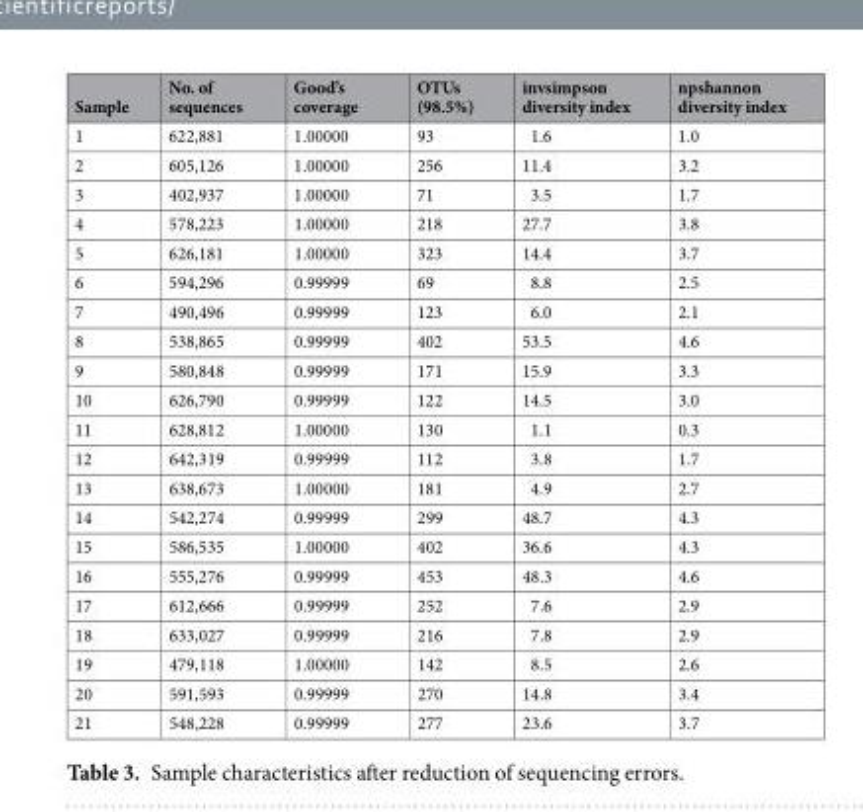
<table><thead><tr><td>Sample</td><td>No. of sequences</td><td>Good’s coverage</td><td>OTUs (98.5%)</td><td>invsimpson diversity index</td><td>npshannon diversity index</td></tr></thead><tbody><tr><td>1</td><td>622,881</td><td>1.00000</td><td>93</td><td>1.6</td><td>1.0</td></tr><tr><td>2</td><td>605,126</td><td>1.00000</td><td>256</td><td>11.4</td><td>3.2</td></tr><tr><td>3</td><td>402,937</td><td>1.00000</td><td>71</td><td>3.5</td><td>1.7</td></tr><tr><td>4</td><td>578,223</td><td>1.00000</td><td>218</td><td>27.7</td><td>3.8</td></tr><tr><td>5</td><td>626,181</td><td>1.00000</td><td>323</td><td>14.4</td><td>3.7</td></tr><tr><td>6</td><td>594,296</td><td>0.99999</td><td>69</td><td>8.8</td><td>2.5</td></tr><tr><td>7</td><td>490,496</td><td>0.99999</td><td>123</td><td>6.0</td><td>2.1</td></tr><tr><td>8</td><td>538,865</td><td>0.99999</td><td>402</td><td>53.5</td><td>4.6</td></tr><tr><td>9</td><td>580,848</td><td>0.99999</td><td>171</td><td>15.9</td><td>3.3</td></tr><tr><td>10</td><td>626,790</td><td>0.99999</td><td>122</td><td>14.5</td><td>3.0</td></tr><tr><td>11</td><td>628,812</td><td>1.00000</td><td>130</td><td>1.1</td><td>0.3</td></tr><tr><td>12</td><td>642,319</td><td>0.99999</td><td>112</td><td>3.8</td><td>1.7</td></tr><tr><td>13</td><td>638,673</td><td>1.00000</td><td>181</td><td>4.9</td><td>2.7</td></tr><tr><td>14</td><td>542,274</td><td>0.99999</td><td>299</td><td>48.7</td><td>4.3</td></tr><tr><td>15</td><td>586,535</td><td>1.00000</td><td>402</td><td>36.6</td><td>4.3</td></tr><tr><td>16</td><td>555,276</td><td>0.99999</td><td>453</td><td>48.3</td><td>4.6</td></tr><tr><td>17</td><td>612,666</td><td>0.99999</td><td>252</td><td>7.6</td><td>2.9</td></tr><tr><td>18</td><td>633,027</td><td>0.99999</td><td>216</td><td>7.8</td><td>2.9</td></tr><tr><td>19</td><td>479,118</td><td>1.00000</td><td>142</td><td>8.5</td><td>2.6</td></tr><tr><td>20</td><td>591,593</td><td>0.99999</td><td>270</td><td>14.8</td><td>3.4</td></tr><tr><td>21</td><td>548,228</td><td>0.99999</td><td>277</td><td>23.6</td><td>3.7</td></tr></tbody></table>